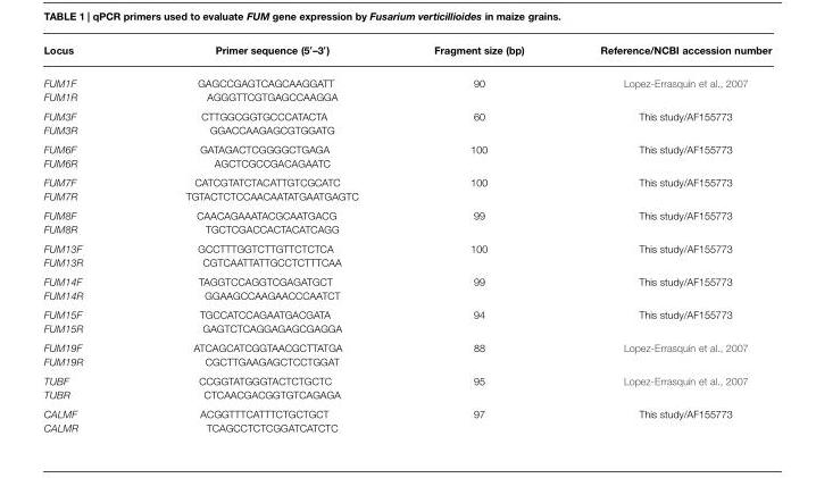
<table><thead><tr><td>Locus</td><td>Primer sequence (5′–3′)</td><td>Fragment size (bp)</td><td>Reference/NCBI accession number</td></tr></thead><tbody><tr><td>FUM1F FUM1R</td><td>GAGCCGAGTCAGCAAGGATT AGGGTTCGTGAGCCAAGGA</td><td>90</td><td>Lopez-Errasquín et al., 2007</td></tr><tr><td>FUM3F FUM3R</td><td>CTTGGCGGTGCCCATACTA GGACCAAGAGCGTGGATG</td><td>60</td><td>This study/AF155773</td></tr><tr><td>FUM6F FUM6R</td><td>GATAGACTCGGGGCTGAGA AGCTCGCCGACAGAATC</td><td>100</td><td>This study/AF155773</td></tr><tr><td>FUM7F FUM7R</td><td>CATCGTATCTACATTGTCGCATC TGTACTCTCCAACAATATGAATGAGTC</td><td>100</td><td>This study/AF155773</td></tr><tr><td>FUM8F FUM8R</td><td>CAACAGAAATACGCAATGACG TGCTCGACCACTACATCAGG</td><td>99</td><td>This study/AF155773</td></tr><tr><td>FUM13F FUM13R</td><td>GCCTTTGGTCTTGTTCTCTCA CGTCAATTATTGCCTCTTTCAA</td><td>100</td><td>This study/AF155773</td></tr><tr><td>FUM14F FUM14R</td><td>TAGGTCCAGGTCGAGATGCT GGAAGCCAAGAACCCAATCT</td><td>99</td><td>This study/AF155773</td></tr><tr><td>FUM15F FUM15R</td><td>TGCCATCCAGAATGACGATA GAGTCTCAGGAGAGCGAGGA</td><td>94</td><td>This study/AF155773</td></tr><tr><td>FUM19F FUM19R</td><td>ATCAGCATCGGTAACGCTTATGA CGCTTGAAGAGCTCCTGGAT</td><td>88</td><td>Lopez-Errasquín et al., 2007</td></tr><tr><td>TUBF TUBR</td><td>CCGGTATGGGTACTCTGCTC CTCAACGACGGTGTCAGAGA</td><td>95</td><td>Lopez-Errasquín et al., 2007</td></tr><tr><td>CALMF CALMR</td><td>ACGGTTTCATTTCTGCTGCT TCAGCCTCTCGGATCATCTC</td><td>97</td><td>This study/AF155773</td></tr></tbody></table>